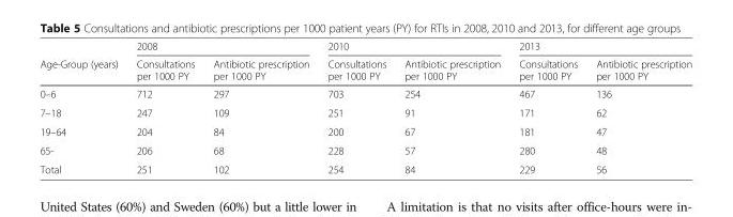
<table><thead><tr><td rowspan="2">Age-Group (years)</td><td colspan="2">2008</td><td colspan="2">2010</td><td colspan="2">2013</td></tr><tr><td>Consultations per 1000 PY</td><td>Antibiotic prescription per 1000 PY</td><td>Consultations per 1000 PY</td><td>Antibiotic prescription per 1000 PY</td><td>Consultations per 1000 PY</td><td>Antibiotic prescription per 1000 PY</td></tr></thead><tbody><tr><td>0–6</td><td>712</td><td>297</td><td>703</td><td>254</td><td>467</td><td>136</td></tr><tr><td>7–18</td><td>247</td><td>109</td><td>251</td><td>91</td><td>171</td><td>62</td></tr><tr><td>19–64</td><td>204</td><td>84</td><td>200</td><td>67</td><td>181</td><td>47</td></tr><tr><td>65-</td><td>206</td><td>68</td><td>228</td><td>57</td><td>280</td><td>48</td></tr><tr><td>Total</td><td>251</td><td>102</td><td>254</td><td>84</td><td>229</td><td>56</td></tr></tbody></table>